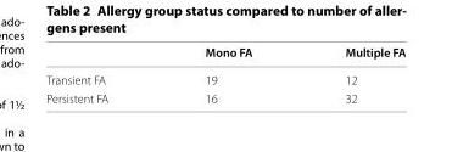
<table><thead><tr><td></td><td>Mono FA</td><td>Multiple FA</td></tr></thead><tbody><tr><td>Transient FA</td><td>19</td><td>12</td></tr><tr><td>Persistent FA</td><td>16</td><td>32</td></tr></tbody></table>